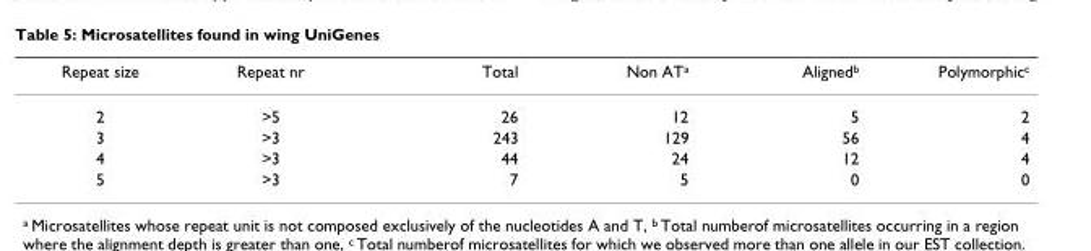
<table><thead><tr><td>Repeat size</td><td>Repeat nr</td><td>Total</td><td>Non AT<sup>a</sup></td><td>Aligned<sup>b</sup></td><td>Polymorphic<sup>c</sup></td></tr></thead><tbody><tr><td>2</td><td>&gt;5</td><td>26</td><td>12</td><td>5</td><td>2</td></tr><tr><td>3</td><td>&gt;3</td><td>243</td><td>129</td><td>56</td><td>4</td></tr><tr><td>4</td><td>&gt;3</td><td>44</td><td>24</td><td>12</td><td>4</td></tr><tr><td>5</td><td>&gt;3</td><td>7</td><td>5</td><td>0</td><td>0</td></tr></tbody></table>